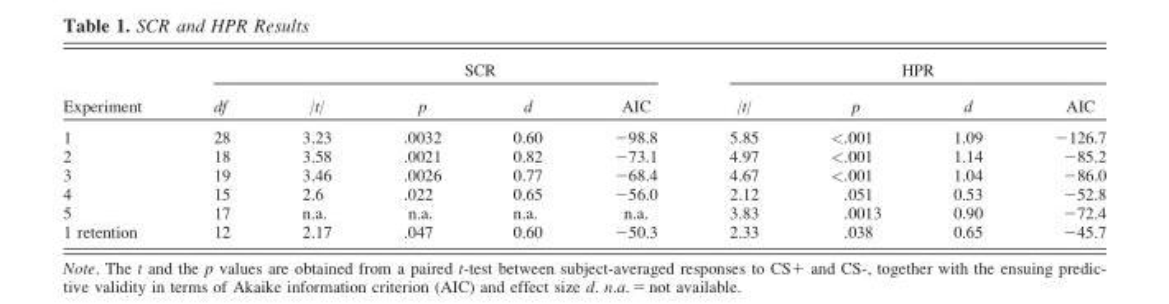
<table><thead><tr><td rowspan="2">Experiment</td><td rowspan="2">df</td><td colspan="4">SCR</td><td colspan="4">HPR</td></tr><tr><td>|t|</td><td>p</td><td>d</td><td>AIC</td><td>|t|</td><td>p</td><td>d</td><td>AIC</td></tr></thead><tbody><tr><td>1</td><td>28</td><td>3.23</td><td>.0032</td><td>0.60</td><td>−98.8</td><td>5.85</td><td>&lt;.001</td><td>1.09</td><td>−126.7</td></tr><tr><td>2</td><td>18</td><td>3.58</td><td>.0021</td><td>0.82</td><td>−73.1</td><td>4.97</td><td>&lt;.001</td><td>1.14</td><td>−85.2</td></tr><tr><td>3</td><td>19</td><td>3.46</td><td>.0026</td><td>0.77</td><td>−68.4</td><td>4.67</td><td>&lt;.001</td><td>1.04</td><td>−86.0</td></tr><tr><td>4</td><td>15</td><td>2.6</td><td>.022</td><td>0.65</td><td>−56.0</td><td>2.12</td><td>.051</td><td>0.53</td><td>−52.8</td></tr><tr><td>5</td><td>17</td><td>n.a.</td><td>n.a.</td><td>n.a.</td><td>n.a.</td><td>3.83</td><td>.0013</td><td>0.90</td><td>−72.4</td></tr><tr><td>1 retention</td><td>12</td><td>2.17</td><td>.047</td><td>0.60</td><td>−50.3</td><td>2.33</td><td>.038</td><td>0.65</td><td>−45.7</td></tr></tbody></table>